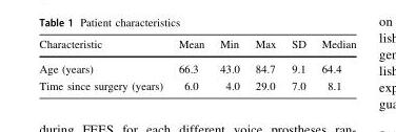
<table><thead><tr><td>Characteristic</td><td>Mean</td><td>Min</td><td>Max</td><td>SD</td><td>Median</td></tr></thead><tbody><tr><td>Age (years)</td><td>66.3</td><td>43.0</td><td>84.7</td><td>9.1</td><td>64.4</td></tr><tr><td>Time since surgery (years)</td><td>6.0</td><td>4.0</td><td>29.0</td><td>7.0</td><td>8.1</td></tr></tbody></table>